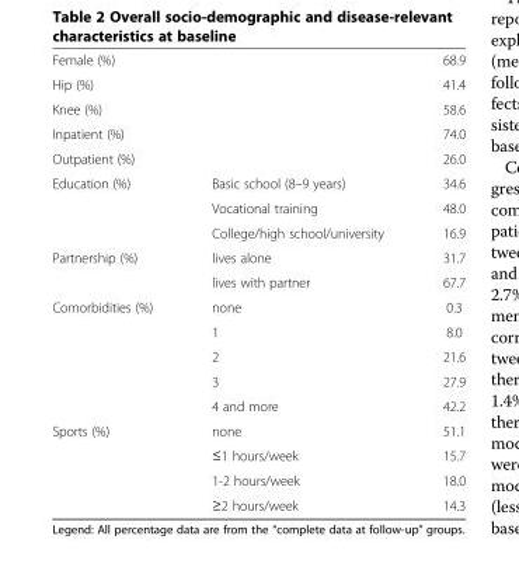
<table><tbody><tr><td>Female (%)</td><td></td><td>68.9</td></tr><tr><td>Hip (%)</td><td></td><td>41.4</td></tr><tr><td>Knee (%)</td><td></td><td>58.6</td></tr><tr><td>Inpatient (%)</td><td></td><td>74.0</td></tr><tr><td>Outpatient (%)</td><td></td><td>26.0</td></tr><tr><td rowspan="3">Education (%)</td><td>Basic school (8–9 years)</td><td>34.6</td></tr><tr><td>Vocational training</td><td>48.0</td></tr><tr><td>College/high school/university</td><td>16.9</td></tr><tr><td rowspan="2">Partnership (%)</td><td>lives alone</td><td>31.7</td></tr><tr><td>lives with partner</td><td>67.7</td></tr><tr><td rowspan="5">Comorbidities (%)</td><td>none</td><td>0.3</td></tr><tr><td>1</td><td>8.0</td></tr><tr><td>2</td><td>21.6</td></tr><tr><td>3</td><td>27.9</td></tr><tr><td>4 and more</td><td>42.2</td></tr><tr><td rowspan="4">Sports (%)</td><td>none</td><td>51.1</td></tr><tr><td>≤1 hours/week</td><td>15.7</td></tr><tr><td>1-2 hours/week</td><td>18.0</td></tr><tr><td>≥2 hours/week</td><td>14.3</td></tr></tbody></table>